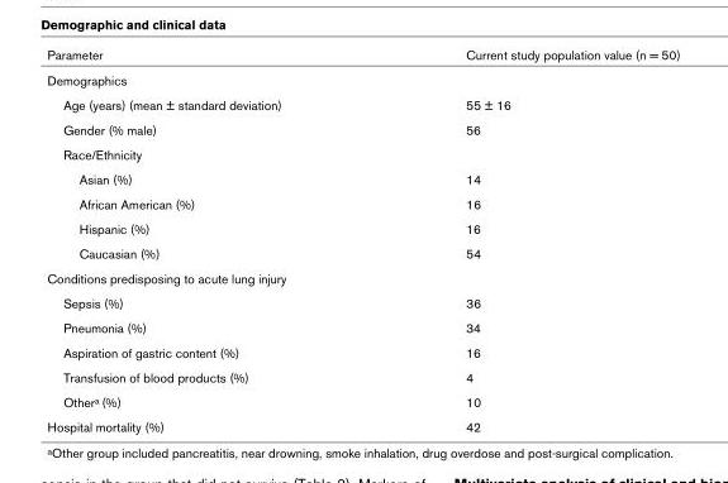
<table><thead><tr><td>Parameter</td><td>Current study population value (n = 50)</td></tr></thead><tbody><tr><td colspan="2">Demographics</td></tr><tr><td>Age (years) (mean ± standard deviation)</td><td>55 ± 16</td></tr><tr><td>Gender (% male)</td><td>56</td></tr><tr><td colspan="2">Race/Ethnicity</td></tr><tr><td>Asian (%)</td><td>14</td></tr><tr><td>African American (%)</td><td>16</td></tr><tr><td>Hispanic (%)</td><td>16</td></tr><tr><td>Caucasian (%)</td><td>54</td></tr><tr><td colspan="2">Conditions predisposing to acute lung injury</td></tr><tr><td>Sepsis (%)</td><td>36</td></tr><tr><td>Pneumonia (%)</td><td>34</td></tr><tr><td>Aspiration of gastric content (%)</td><td>16</td></tr><tr><td>Transfusion of blood products (%)</td><td>4</td></tr><tr><td>Other<sup>a</sup> (%)</td><td>10</td></tr><tr><td>Hospital mortality (%)</td><td>42</td></tr></tbody></table>